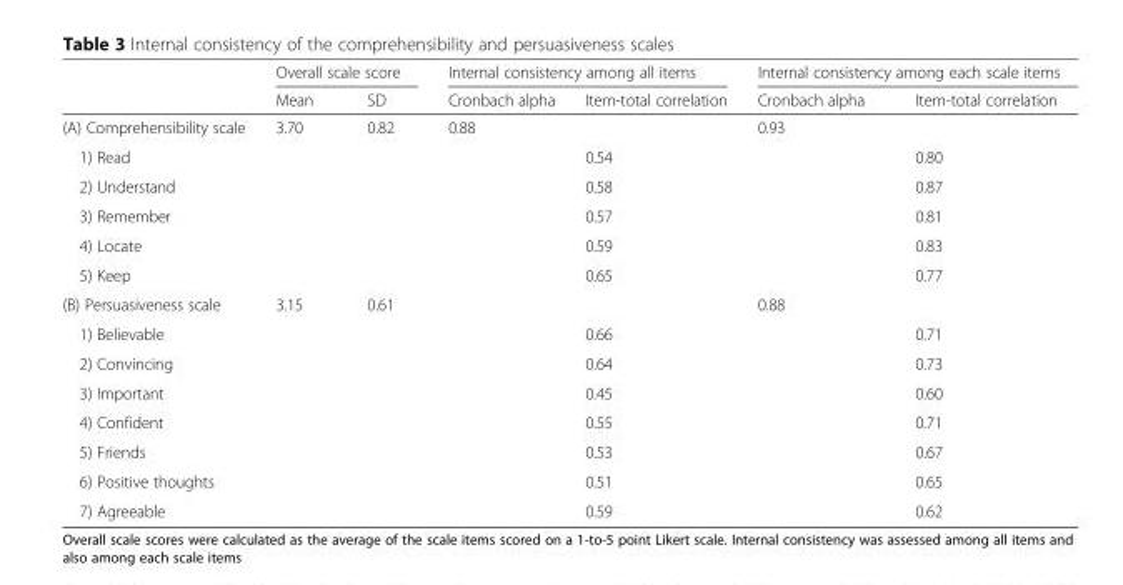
<table><thead><tr><td rowspan="2"></td><td colspan="2">Overall scale score</td><td colspan="2">Internal consistency among all items</td><td colspan="2">Internal consistency among each scale items</td></tr><tr><td>Mean</td><td>SD</td><td>Cronbach alpha</td><td>Item-total correlation</td><td>Cronbach alpha</td><td>Item-total correlation</td></tr></thead><tbody><tr><td>(A) Comprehensibility scale</td><td>3.70</td><td>0.82</td><td>0.88</td><td></td><td>0.93</td><td></td></tr><tr><td>1) Read</td><td></td><td></td><td></td><td>0.54</td><td></td><td>0.80</td></tr><tr><td>2) Understand</td><td></td><td></td><td></td><td>0.58</td><td></td><td>0.87</td></tr><tr><td>3) Remember</td><td></td><td></td><td></td><td>0.57</td><td></td><td>0.81</td></tr><tr><td>4) Locate</td><td></td><td></td><td></td><td>0.59</td><td></td><td>0.83</td></tr><tr><td>5) Keep</td><td></td><td></td><td></td><td>0.65</td><td></td><td>0.77</td></tr><tr><td>(B) Persuasiveness scale</td><td>3.15</td><td>0.61</td><td></td><td></td><td>0.88</td><td></td></tr><tr><td>1) Believable</td><td></td><td></td><td></td><td>0.66</td><td></td><td>0.71</td></tr><tr><td>2) Convincing</td><td></td><td></td><td></td><td>0.64</td><td></td><td>0.73</td></tr><tr><td>3) Important</td><td></td><td></td><td></td><td>0.45</td><td></td><td>0.60</td></tr><tr><td>4) Confident</td><td></td><td></td><td></td><td>0.55</td><td></td><td>0.71</td></tr><tr><td>5) Friends</td><td></td><td></td><td></td><td>0.53</td><td></td><td>0.67</td></tr><tr><td>6) Positive thoughts</td><td></td><td></td><td></td><td>0.51</td><td></td><td>0.65</td></tr><tr><td>7) Agreeable</td><td></td><td></td><td></td><td>0.59</td><td></td><td>0.62</td></tr></tbody></table>